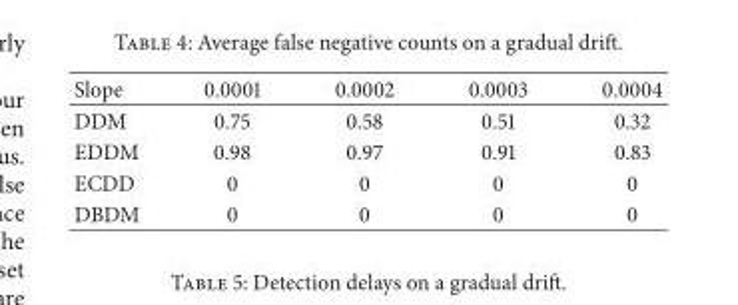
<table><thead><tr><td>Slope</td><td>0.0001</td><td>0.0002</td><td>0.0003</td><td>0.0004</td></tr></thead><tbody><tr><td>DDM</td><td>0.75</td><td>0.58</td><td>0.51</td><td>0.32</td></tr><tr><td>EDDM</td><td>0.98</td><td>0.97</td><td>0.91</td><td>0.83</td></tr><tr><td>ECDD</td><td>0</td><td>0</td><td>0</td><td>0</td></tr><tr><td>DBDM</td><td>0</td><td>0</td><td>0</td><td>0</td></tr></tbody></table>